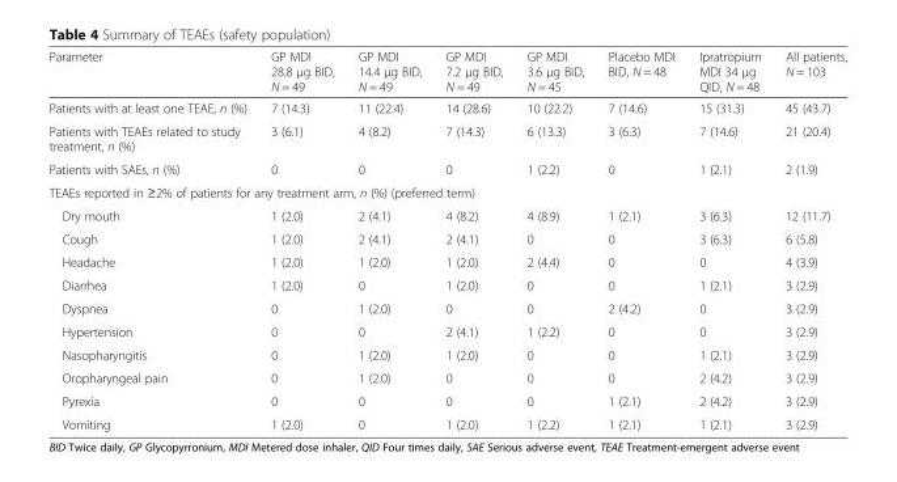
<table><thead><tr><td>Parameter</td><td>GP MDI 28.8 μg BID, N = 49</td><td>GP MDI 14.4 μg BID, N = 49</td><td>GP MDI 7.2 μg BID, N = 49</td><td>GP MDI 3.6 μg BID, N = 45</td><td>Placebo MDI BID, N = 48</td><td>Ipratropium MDI 34 μg QID, N = 48</td><td>All patients, N = 103</td></tr></thead><tbody><tr><td>Patients with at least one TEAE, n (%)</td><td>7 (14.3)</td><td>11 (22.4)</td><td>14 (28.6)</td><td>10 (22.2)</td><td>7 (14.6)</td><td>15 (31.3)</td><td>45 (43.7)</td></tr><tr><td>Patients with TEAEs related to study treatment, n (%)</td><td>3 (6.1)</td><td>4 (8.2)</td><td>7 (14.3)</td><td>6 (13.3)</td><td>3 (6.3)</td><td>7 (14.6)</td><td>21 (20.4)</td></tr><tr><td>Patients with SAEs, n (%)</td><td>0</td><td>0</td><td>0</td><td>1 (2.2)</td><td>0</td><td>1 (2.1)</td><td>2 (1.9)</td></tr><tr><td colspan="8">TEAEs reported in ≥2% of patients for any treatment arm, n (%) (preferred term)</td></tr><tr><td>Dry mouth</td><td>1 (2.0)</td><td>2 (4.1)</td><td>4 (8.2)</td><td>4 (8.9)</td><td>1 (2.1)</td><td>3 (6.3)</td><td>12 (11.7)</td></tr><tr><td>Cough</td><td>1 (2.0)</td><td>2 (4.1)</td><td>2 (4.1)</td><td>0</td><td>0</td><td>3 (6.3)</td><td>6 (5.8)</td></tr><tr><td>Headache</td><td>1 (2.0)</td><td>1 (2.0)</td><td>1 (2.0)</td><td>2 (4.4)</td><td>0</td><td>0</td><td>4 (3.9)</td></tr><tr><td>Diarrhea</td><td>1 (2.0)</td><td>0</td><td>1 (2.0)</td><td>0</td><td>0</td><td>1 (2.1)</td><td>3 (2.9)</td></tr><tr><td>Dyspnea</td><td>0</td><td>1 (2.0)</td><td>0</td><td>0</td><td>2 (4.2)</td><td>0</td><td>3 (2.9)</td></tr><tr><td>Hypertension</td><td>0</td><td>0</td><td>2 (4.1)</td><td>1 (2.2)</td><td>0</td><td>0</td><td>3 (2.9)</td></tr><tr><td>Nasopharyngitis</td><td>0</td><td>1 (2.0)</td><td>1 (2.0)</td><td>0</td><td>0</td><td>1 (2.1)</td><td>3 (2.9)</td></tr><tr><td>Oropharyngeal pain</td><td>0</td><td>1 (2.0)</td><td>0</td><td>0</td><td>0</td><td>2 (4.2)</td><td>3 (2.9)</td></tr><tr><td>Pyrexia</td><td>0</td><td>0</td><td>0</td><td>0</td><td>1 (2.1)</td><td>2 (4.2)</td><td>3 (2.9)</td></tr><tr><td>Vomiting</td><td>1 (2.0)</td><td>0</td><td>1 (2.0)</td><td>1 (2.2)</td><td>1 (2.1)</td><td>1 (2.1)</td><td>3 (2.9)</td></tr></tbody></table>